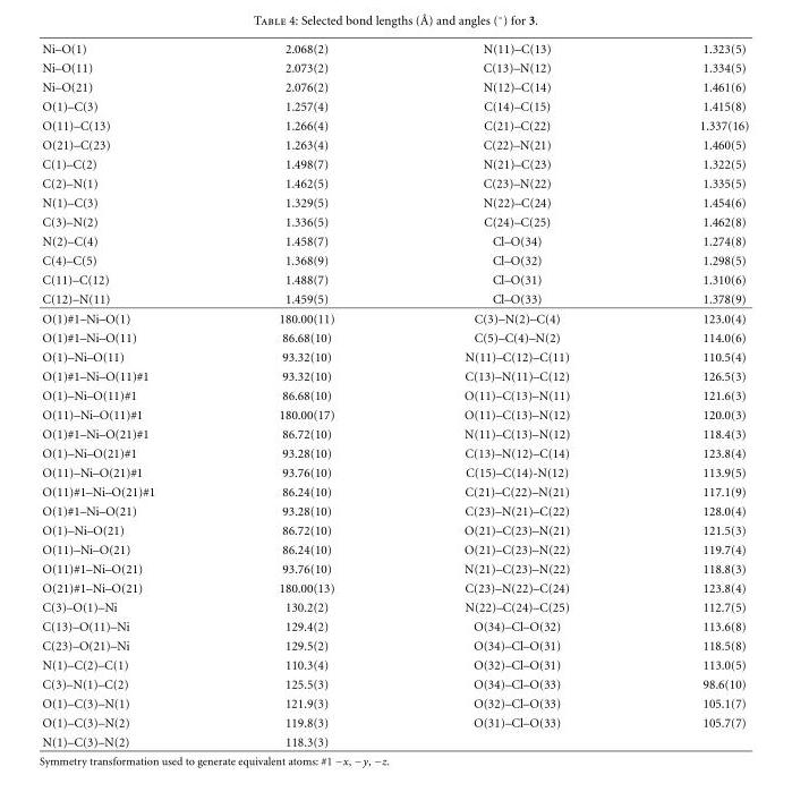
<table><tbody><tr><td>Ni–O(1)</td><td>2.068(2)</td><td>N(11)–C(13)</td><td>1.323(5)</td></tr><tr><td>Ni–O(11)</td><td>2.073(2)</td><td>C(13)–N(12)</td><td>1.334(5)</td></tr><tr><td>Ni–O(21)</td><td>2.076(2)</td><td>N(12)–C(14)</td><td>1.461(6)</td></tr><tr><td>O(1)–C(3)</td><td>1.257(4)</td><td>C(14)–C(15)</td><td>1.415(8)</td></tr><tr><td>O(11)–C(13)</td><td>1.266(4)</td><td>C(21)–C(22)</td><td>1.337(16)</td></tr><tr><td>O(21)–C(23)</td><td>1.263(4)</td><td>C(22)–N(21)</td><td>1.460(5)</td></tr><tr><td>C(1)–C(2)</td><td>1.498(7)</td><td>N(21)–C(23)</td><td>1.322(5)</td></tr><tr><td>C(2)–N(1)</td><td>1.462(5)</td><td>C(23)–N(22)</td><td>1.335(5)</td></tr><tr><td>N(1)–C(3)</td><td>1.329(5)</td><td>N(22)–C(24)</td><td>1.454(6)</td></tr><tr><td>C(3)–N(2)</td><td>1.336(5)</td><td>C(24)–C(25)</td><td>1.462(8)</td></tr><tr><td>N(2)–C(4)</td><td>1.458(7)</td><td>Cl–O(34)</td><td>1.274(8)</td></tr><tr><td>C(4)–C(5)</td><td>1.368(9)</td><td>Cl–O(32)</td><td>1.298(5)</td></tr><tr><td>C(11)–C(12)</td><td>1.488(7)</td><td>Cl–O(31)</td><td>1.310(6)</td></tr><tr><td>C(12)–N(11)</td><td>1.459(5)</td><td>Cl–O(33)</td><td>1.378(9)</td></tr><tr><td>O(1)#1–Ni–O(1)</td><td>180.00(11)</td><td>C(3)–N(2)–C(4)</td><td>123.0(4)</td></tr><tr><td>O(1)#1–Ni–O(11)</td><td>86.68(10)</td><td>C(5)–C(4)–N(2)</td><td>114.0(6)</td></tr><tr><td>O(1)–Ni–O(11)</td><td>93.32(10)</td><td>N(11)–C(12)–C(11)</td><td>110.5(4)</td></tr><tr><td>O(1)#1–Ni–O(11)#1</td><td>93.32(10)</td><td>C(13)–N(11)–C(12)</td><td>126.5(3)</td></tr><tr><td>O(1)–Ni–O(11)#1</td><td>86.68(10)</td><td>O(11)–C(13)–N(11)</td><td>121.6(3)</td></tr><tr><td>O(11)–Ni–O(11)#1</td><td>180.00(17)</td><td>O(11)–C(13)–N(12)</td><td>120.0(3)</td></tr><tr><td>O(1)#1–Ni–O(21)#1</td><td>86.72(10)</td><td>N(11)–C(13)–N(12)</td><td>118.4(3)</td></tr><tr><td>O(1)–Ni–O(21)#1</td><td>93.28(10)</td><td>C(13)–N(12)–C(14)</td><td>123.8(4)</td></tr><tr><td>O(11)–Ni–O(21)#1</td><td>93.76(10)</td><td>C(15)–C(14)-N(12)</td><td>113.9(5)</td></tr><tr><td>O(11)#1–Ni–O(21)#1</td><td>86.24(10)</td><td>C(21)–C(22)–N(21)</td><td>117.1(9)</td></tr><tr><td>O(1)#1–Ni–O(21)</td><td>93.28(10)</td><td>C(23)–N(21)–C(22)</td><td>128.0(4)</td></tr><tr><td>O(1)–Ni–O(21)</td><td>86.72(10)</td><td>O(21)–C(23)–N(21)</td><td>121.5(3)</td></tr><tr><td>O(11)–Ni–O(21)</td><td>86.24(10)</td><td>O(21)–C(23)–N(22)</td><td>119.7(4)</td></tr><tr><td>O(11)#1–Ni–O(21)</td><td>93.76(10)</td><td>N(21)–C(23)–N(22)</td><td>118.8(3)</td></tr><tr><td>O(21)#1–Ni–O(21)</td><td>180.00(13)</td><td>C(23)–N(22)–C(24)</td><td>123.8(4)</td></tr><tr><td>C(3)–O(1)–Ni</td><td>130.2(2)</td><td>N(22)–C(24)–C(25)</td><td>112.7(5)</td></tr><tr><td>C(13)–O(11)–Ni</td><td>129.4(2)</td><td>O(34)–Cl–O(32)</td><td>113.6(8)</td></tr><tr><td>C(23)–O(21)–Ni</td><td>129.5(2)</td><td>O(34)–Cl–O(31)</td><td>118.5(8)</td></tr><tr><td>N(1)–C(2)–C(1)</td><td>110.3(4)</td><td>O(32)–Cl–O(31)</td><td>113.0(5)</td></tr><tr><td>C(3)–N(1)–C(2)</td><td>125.5(3)</td><td>O(34)–Cl–O(33)</td><td>98.6(10)</td></tr><tr><td>O(1)–C(3)–N(1)</td><td>121.9(3)</td><td>O(32)–Cl–O(33)</td><td>105.1(7)</td></tr><tr><td>O(1)–C(3)–N(2)</td><td>119.8(3)</td><td>O(31)–Cl–O(33)</td><td>105.7(7)</td></tr><tr><td>N(1)–C(3)–N(2)</td><td>118.3(3)</td><td></td><td></td></tr></tbody></table>